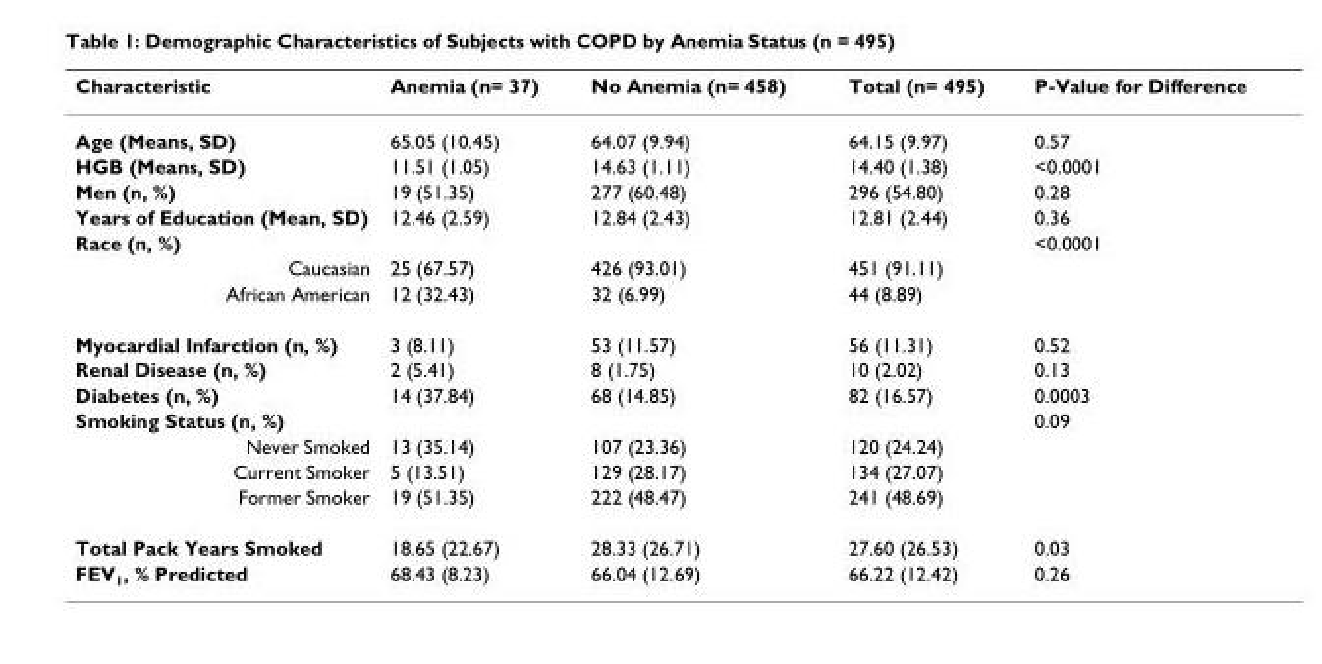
<table><thead><tr><td>Characteristic</td><td>Anemia (n= 37)</td><td>No Anemia (n= 458)</td><td>Total (n= 495)</td><td>P-Value for Difference</td></tr></thead><tbody><tr><td>Age (Means, SD)</td><td>65.05 (10.45)</td><td>64.07 (9.94)</td><td>64.15 (9.97)</td><td>0.57</td></tr><tr><td>HGB (Means, SD)</td><td>11.51 (1.05)</td><td>14.63 (1.11)</td><td>14.40 (1.38)</td><td>&lt;0.0001</td></tr><tr><td>Men (n, %)</td><td>19 (51.35)</td><td>277 (60.48)</td><td>296 (54.80)</td><td>0.28</td></tr><tr><td>Years of Education (Mean, SD)</td><td>12.46 (2.59)</td><td>12.84 (2.43)</td><td>12.81 (2.44)</td><td>0.36</td></tr><tr><td>Race (n, %)</td><td></td><td></td><td></td><td>&lt;0.0001</td></tr><tr><td>Caucasian</td><td>25 (67.57)</td><td>426 (93.01)</td><td>451 (91.11)</td><td></td></tr><tr><td>African American</td><td>12 (32.43)</td><td>32 (6.99)</td><td>44 (8.89)</td><td></td></tr><tr><td>Myocardial Infarction (n, %)</td><td>3 (8.11)</td><td>53 (11.57)</td><td>56 (11.31)</td><td>0.52</td></tr><tr><td>Renal Disease (n, %)</td><td>2 (5.41)</td><td>8 (1.75)</td><td>10 (2.02)</td><td>0.13</td></tr><tr><td>Diabetes (n, %)</td><td>14 (37.84)</td><td>68 (14.85)</td><td>82 (16.57)</td><td>0.0003</td></tr><tr><td>Smoking Status (n, %)</td><td></td><td></td><td></td><td>0.09</td></tr><tr><td>Never Smoked</td><td>13 (35.14)</td><td>107 (23.36)</td><td>120 (24.24)</td><td></td></tr><tr><td>Current Smoker</td><td>5 (13.51)</td><td>129 (28.17)</td><td>134 (27.07)</td><td></td></tr><tr><td>Former Smoker</td><td>19 (51.35)</td><td>222 (48.47)</td><td>241 (48.69)</td><td></td></tr><tr><td>Total Pack Years Smoked</td><td>18.65 (22.67)</td><td>28.33 (26.71)</td><td>27.60 (26.53)</td><td>0.03</td></tr><tr><td>FEV1, % Predicted</td><td>68.43 (8.23)</td><td>66.04 (12.69)</td><td>66.22 (12.42)</td><td>0.26</td></tr></tbody></table>